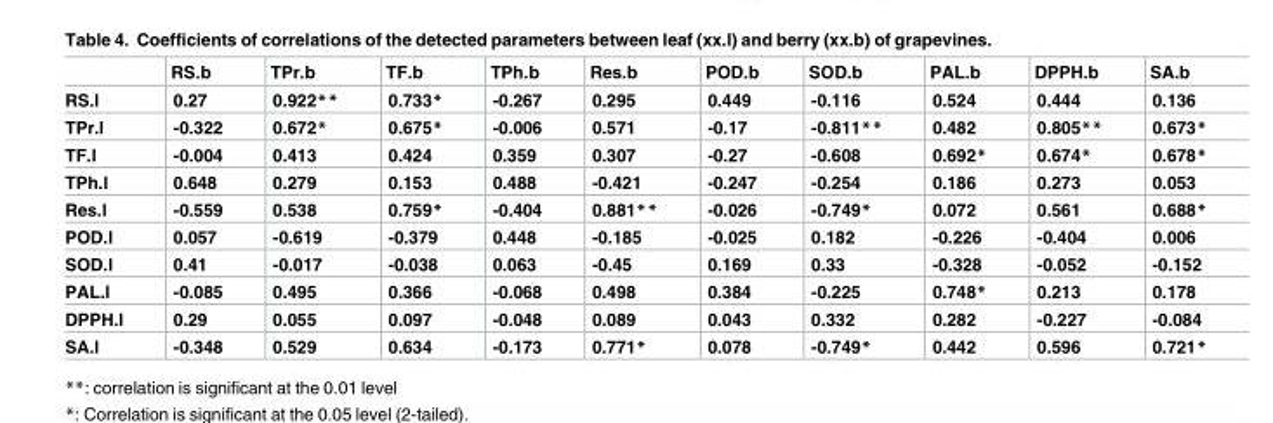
<table><thead><tr><td></td><td>RS.b</td><td>TPr.b</td><td>TF.b</td><td>TPh.b</td><td>Res.b</td><td>POD.b</td><td>SOD.b</td><td>PAL.b</td><td>DPPH.b</td><td>SA.b</td></tr></thead><tbody><tr><td>RS.l</td><td>0.27</td><td>0.922**</td><td>0.733*</td><td>-0.267</td><td>0.295</td><td>0.449</td><td>-0.116</td><td>0.524</td><td>0.444</td><td>0.136</td></tr><tr><td>TPr.l</td><td>-0.322</td><td>0.672*</td><td>0.675*</td><td>-0.006</td><td>0.571</td><td>-0.17</td><td>-0.811**</td><td>0.482</td><td>0.805**</td><td>0.673*</td></tr><tr><td>TF.l</td><td>-0.004</td><td>0.413</td><td>0.424</td><td>0.359</td><td>0.307</td><td>-0.27</td><td>-0.608</td><td>0.692*</td><td>0.674*</td><td>0.678*</td></tr><tr><td>TPh.l</td><td>0.648</td><td>0.279</td><td>0.153</td><td>0.488</td><td>-0.421</td><td>-0.247</td><td>-0.254</td><td>0.186</td><td>0.273</td><td>0.053</td></tr><tr><td>Res.l</td><td>-0.559</td><td>0.538</td><td>0.759*</td><td>-0.404</td><td>0.881**</td><td>-0.026</td><td>-0.749*</td><td>0.072</td><td>0.561</td><td>0.688*</td></tr><tr><td>POD.l</td><td>0.057</td><td>-0.619</td><td>-0.379</td><td>0.448</td><td>-0.185</td><td>-0.025</td><td>0.182</td><td>-0.226</td><td>-0.404</td><td>0.006</td></tr><tr><td>SOD.l</td><td>0.41</td><td>-0.017</td><td>-0.038</td><td>0.063</td><td>-0.45</td><td>0.169</td><td>0.33</td><td>-0.328</td><td>-0.052</td><td>-0.152</td></tr><tr><td>PAL.l</td><td>-0.085</td><td>0.495</td><td>0.366</td><td>-0.068</td><td>0.498</td><td>0.384</td><td>-0.225</td><td>0.748*</td><td>0.213</td><td>0.178</td></tr><tr><td>DPPH.l</td><td>0.29</td><td>0.055</td><td>0.097</td><td>-0.048</td><td>0.089</td><td>0.043</td><td>0.332</td><td>0.282</td><td>-0.227</td><td>-0.084</td></tr><tr><td>SA.l</td><td>-0.348</td><td>0.529</td><td>0.634</td><td>-0.173</td><td>0.771*</td><td>0.078</td><td>-0.749*</td><td>0.442</td><td>0.596</td><td>0.721*</td></tr></tbody></table>